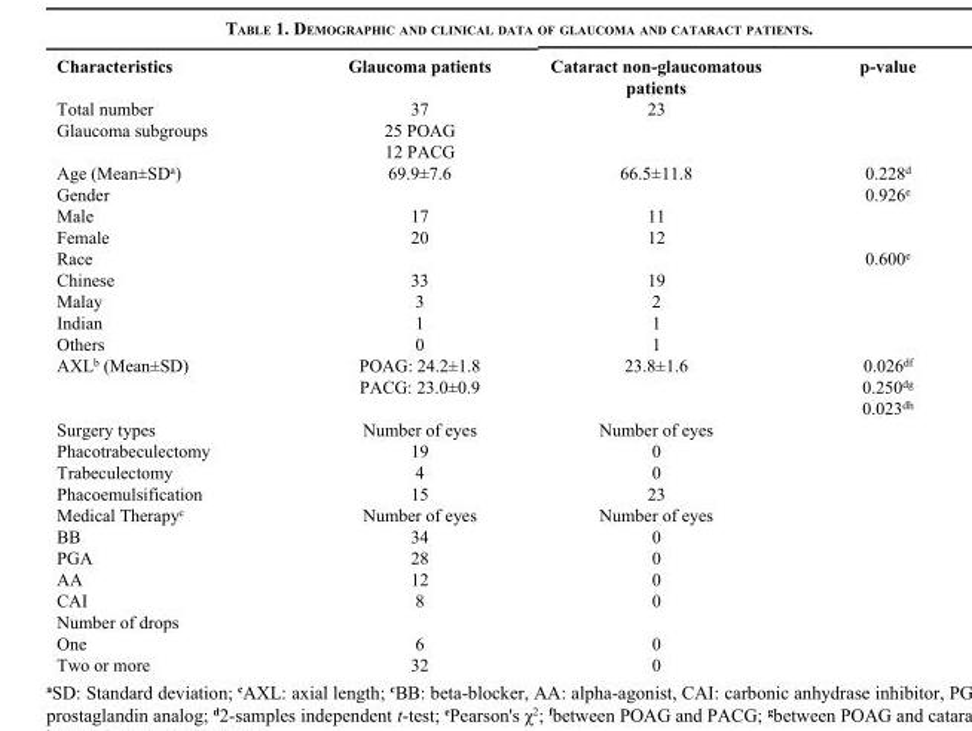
<table><thead><tr><td>Characteristics</td><td>Glaucoma patients</td><td>Cataract non-glaucomatous patients</td><td>p-value</td></tr></thead><tbody><tr><td>Total number</td><td>37</td><td>23</td><td></td></tr><tr><td rowspan="2">Glaucoma subgroups</td><td>25 POAG</td><td></td><td></td></tr><tr><td>12 PACG</td><td></td><td></td></tr><tr><td>Age (Mean±SD<sup>a</sup>)</td><td>69.9±7.6</td><td>66.5±11.8</td><td>0.228<sup>d</sup></td></tr><tr><td>Gender</td><td></td><td></td><td>0.926<sup>e</sup></td></tr><tr><td>Male</td><td>17</td><td>11</td><td></td></tr><tr><td>Female</td><td>20</td><td>12</td><td></td></tr><tr><td>Race</td><td></td><td></td><td>0.600<sup>e</sup></td></tr><tr><td>Chinese</td><td>33</td><td>19</td><td></td></tr><tr><td>Malay</td><td>3</td><td>2</td><td></td></tr><tr><td>Indian</td><td>1</td><td>1</td><td></td></tr><tr><td>Others</td><td>0</td><td>1</td><td></td></tr><tr><td rowspan="3">AXL<sup>b</sup> (Mean±SD)</td><td>POAG: 24.2±1.8</td><td>23.8±1.6</td><td>0.026<sup>df</sup></td></tr><tr><td>PACG: 23.0±0.9</td><td></td><td>0.250<sup>dg</sup></td></tr><tr><td></td><td></td><td>0.023<sup>dh</sup></td></tr><tr><td>Surgery types</td><td>Number of eyes</td><td>Number of eyes</td><td></td></tr><tr><td>Phacotrabeculectomy</td><td>19</td><td>0</td><td></td></tr><tr><td>Trabeculectomy</td><td>4</td><td>0</td><td></td></tr><tr><td>Phacoemulsification</td><td>15</td><td>23</td><td></td></tr><tr><td>Medical Therapy<sup>c</sup></td><td>Number of eyes</td><td>Number of eyes</td><td></td></tr><tr><td>BB</td><td>34</td><td>0</td><td></td></tr><tr><td>PGA</td><td>28</td><td>0</td><td></td></tr><tr><td>AA</td><td>12</td><td>0</td><td></td></tr><tr><td>CAI</td><td>8</td><td>0</td><td></td></tr><tr><td colspan="4">Number of drops</td></tr><tr><td>One</td><td>6</td><td>0</td><td></td></tr><tr><td>Two or more</td><td>32</td><td>0</td><td></td></tr></tbody></table>